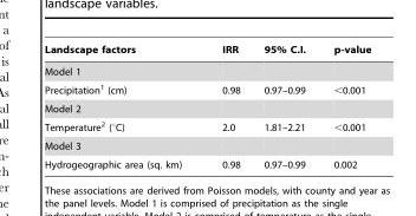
<table><thead><tr><td>Landscape factors</td><td>IRR</td><td>95% C.I.</td><td>p-value</td></tr></thead><tbody><tr><td colspan="4">Model 1</td></tr><tr><td>Precipitation<sup>1</sup> (cm)</td><td>0.98</td><td>0.97–0.99</td><td>&lt;0.001</td></tr><tr><td colspan="4">Model 2</td></tr><tr><td>Temperature<sup>2</sup> (°C)</td><td>2.0</td><td>1.81–2.21</td><td>&lt;0.001</td></tr><tr><td colspan="4">Model 3</td></tr><tr><td>Hydrogeographic area (sq. km)</td><td>0.98</td><td>0.97–0.99</td><td>0.002</td></tr></tbody></table>